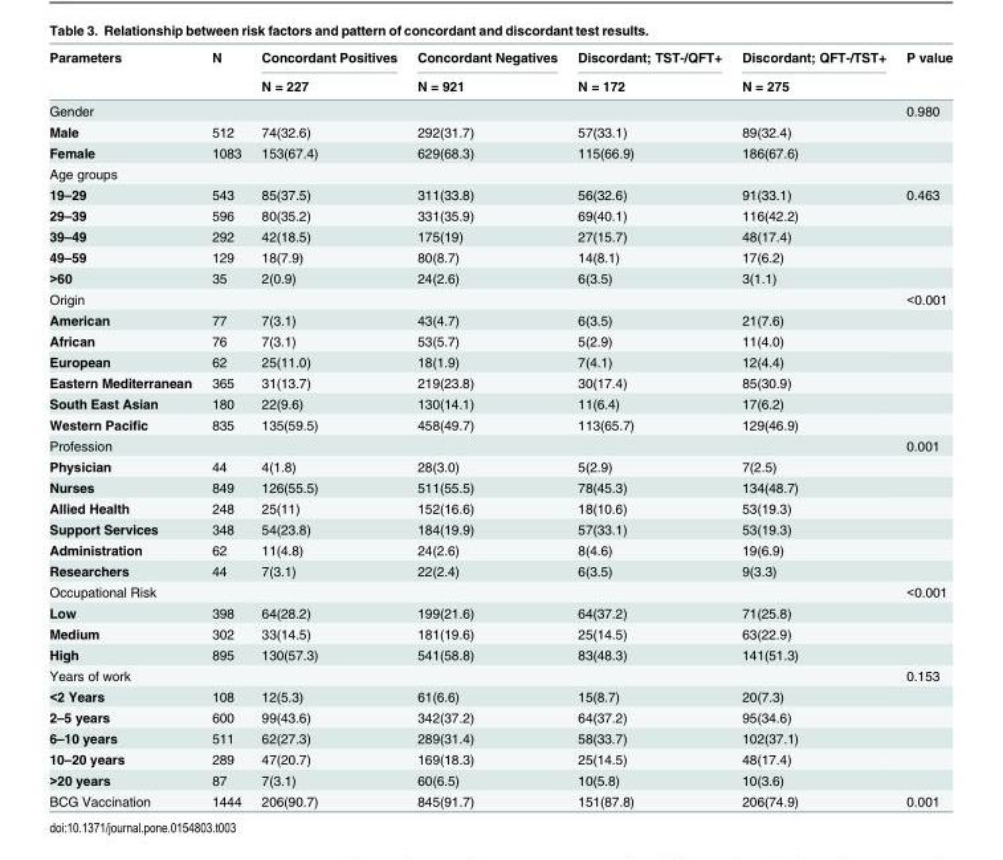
<table><thead><tr><td rowspan="2">Parameters</td><td rowspan="2">N</td><td rowspan="2">Concordant Positives N = 227</td><td rowspan="2">Concordant Negatives N = 921</td><td rowspan="2">Discordant; TST-/QFT+ N = 172</td><td rowspan="2">Discordant; QFT-/TST+ N = 275</td><td rowspan="2">P value</td></tr><tr></tr></thead><tbody><tr><td>Gender</td><td></td><td></td><td></td><td></td><td></td><td>0.980</td></tr><tr><td>Male</td><td>512</td><td>74(32.6)</td><td>292(31.7)</td><td>57(33.1)</td><td>89(32.4)</td><td></td></tr><tr><td>Female</td><td>1083</td><td>153(67.4)</td><td>629(68.3)</td><td>115(66.9)</td><td>186(67.6)</td><td></td></tr><tr><td colspan="7">Age groups</td></tr><tr><td>19–29</td><td>543</td><td>85(37.5)</td><td>311(33.8)</td><td>56(32.6)</td><td>91(33.1)</td><td>0.463</td></tr><tr><td>29–39</td><td>596</td><td>80(35.2)</td><td>331(35.9)</td><td>69(40.1)</td><td>116(42.2)</td><td></td></tr><tr><td>39–49</td><td>292</td><td>42(18.5)</td><td>175(19)</td><td>27(15.7)</td><td>48(17.4)</td><td></td></tr><tr><td>49–59</td><td>129</td><td>18(7.9)</td><td>80(8.7)</td><td>14(8.1)</td><td>17(6.2)</td><td></td></tr><tr><td>&gt;60</td><td>35</td><td>2(0.9)</td><td>24(2.6)</td><td>6(3.5)</td><td>3(1.1)</td><td></td></tr><tr><td>Origin</td><td></td><td></td><td></td><td></td><td></td><td>&lt;0.001</td></tr><tr><td>American</td><td>77</td><td>7(3.1)</td><td>43(4.7)</td><td>6(3.5)</td><td>21(7.6)</td><td></td></tr><tr><td>African</td><td>76</td><td>7(3.1)</td><td>53(5.7)</td><td>5(2.9)</td><td>11(4.0)</td><td></td></tr><tr><td>European</td><td>62</td><td>25(11.0)</td><td>18(1.9)</td><td>7(4.1)</td><td>12(4.4)</td><td></td></tr><tr><td>Eastern Mediterranean</td><td>365</td><td>31(13.7)</td><td>219(23.8)</td><td>30(17.4)</td><td>85(30.9)</td><td></td></tr><tr><td>South East Asian</td><td>180</td><td>22(9.6)</td><td>130(14.1)</td><td>11(6.4)</td><td>17(6.2)</td><td></td></tr><tr><td>Western Pacific</td><td>835</td><td>135(59.5)</td><td>458(49.7)</td><td>113(65.7)</td><td>129(46.9)</td><td></td></tr><tr><td>Profession</td><td></td><td></td><td></td><td></td><td></td><td>0.001</td></tr><tr><td>Physician</td><td>44</td><td>4(1.8)</td><td>28(3.0)</td><td>5(2.9)</td><td>7(2.5)</td><td></td></tr><tr><td>Nurses</td><td>849</td><td>126(55.5)</td><td>511(55.5)</td><td>78(45.3)</td><td>134(48.7)</td><td></td></tr><tr><td>Allied Health</td><td>248</td><td>25(11)</td><td>152(16.6)</td><td>18(10.6)</td><td>53(19.3)</td><td></td></tr><tr><td>Support Services</td><td>348</td><td>54(23.8)</td><td>184(19.9)</td><td>57(33.1)</td><td>53(19.3)</td><td></td></tr><tr><td>Administration</td><td>62</td><td>11(4.8)</td><td>24(2.6)</td><td>8(4.6)</td><td>19(6.9)</td><td></td></tr><tr><td>Researchers</td><td>44</td><td>7(3.1)</td><td>22(2.4)</td><td>6(3.5)</td><td>9(3.3)</td><td></td></tr><tr><td>Occupational Risk</td><td></td><td></td><td></td><td></td><td></td><td>&lt;0.001</td></tr><tr><td>Low</td><td>398</td><td>64(28.2)</td><td>199(21.6)</td><td>64(37.2)</td><td>71(25.8)</td><td></td></tr><tr><td>Medium</td><td>302</td><td>33(14.5)</td><td>181(19.6)</td><td>25(14.5)</td><td>63(22.9)</td><td></td></tr><tr><td>High</td><td>895</td><td>130(57.3)</td><td>541(58.8)</td><td>83(48.3)</td><td>141(51.3)</td><td></td></tr><tr><td>Years of work</td><td></td><td></td><td></td><td></td><td></td><td>0.153</td></tr><tr><td>&lt;2 Years</td><td>108</td><td>12(5.3)</td><td>61(6.6)</td><td>15(8.7)</td><td>20(7.3)</td><td></td></tr><tr><td>2–5 years</td><td>600</td><td>99(43.6)</td><td>342(37.2)</td><td>64(37.2)</td><td>95(34.6)</td><td></td></tr><tr><td>6–10 years</td><td>511</td><td>62(27.3)</td><td>289(31.4)</td><td>58(33.7)</td><td>102(37.1)</td><td></td></tr><tr><td>10–20 years</td><td>289</td><td>47(20.7)</td><td>169(18.3)</td><td>25(14.5)</td><td>48(17.4)</td><td></td></tr><tr><td>&gt;20 years</td><td>87</td><td>7(3.1)</td><td>60(6.5)</td><td>10(5.8)</td><td>10(3.6)</td><td></td></tr><tr><td>BCG Vaccination</td><td>1444</td><td>206(90.7)</td><td>845(91.7)</td><td>151(87.8)</td><td>206(74.9)</td><td>0.001</td></tr></tbody></table>